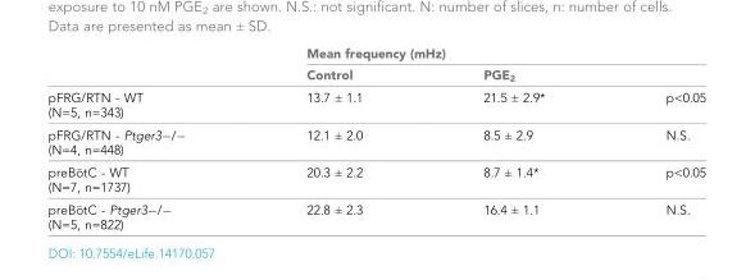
<table><thead><tr><td rowspan="2"></td><td colspan="3">Mean frequency (mHz)</td></tr><tr><td>Control</td><td>PGE<sub>2</sub></td><td></td></tr></thead><tbody><tr><td>pFRG/RTN - WT (N=5, n=343)</td><td>13.7 ± 1.1</td><td>21.5 ± 2.9*</td><td>p&lt;0.05</td></tr><tr><td>pFRG/RTN - Ptger3−/− (N=4, n=448)</td><td>12.1 ± 2.0</td><td>8.5 ± 2.9</td><td>N.S.</td></tr><tr><td>preBo¨ tC - WT (N=7, n=1737)</td><td>20.3 ± 2.2</td><td>8.7 ± 1.4*</td><td>p&lt;0.05</td></tr><tr><td>preBo¨ tC - Ptger3�/� (N=5, n=822)</td><td>22.8 ± 2.3</td><td>16.4 ± 1.1</td><td>N.S.</td></tr></tbody></table>